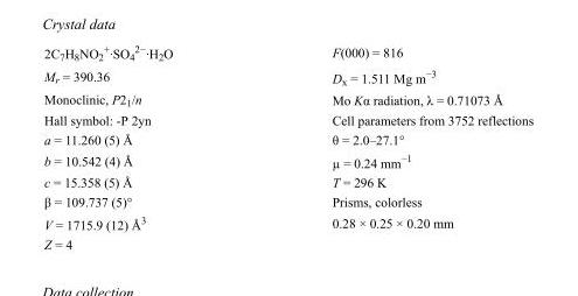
<table><tbody><tr><td>2C<sub>7</sub>H<sub>8</sub>NO<sub>2</sub> <sup>+</sup>·SO<sub>4</sub> <sup>2−</sup>·H<sub>2</sub>O</td><td>F(000) = 816</td></tr><tr><td>M<sub>r</sub> = 390.36</td><td>D<sub>x</sub> = 1.511 Mg m<sup>−3</sup></td></tr><tr><td>Monoclinic, P2<sub>1</sub>/n</td><td>Mo Kα radiation, λ = 0.71073 Å</td></tr><tr><td>Hall symbol: -P 2yn</td><td>Cell parameters from 3752 reflections</td></tr><tr><td>a = 11.260 (5) Å</td><td>θ = 2.0–27.1°</td></tr><tr><td>b = 10.542 (4) Å</td><td>µ = 0.24 mm<sup>−1</sup></td></tr><tr><td>c = 15.358 (5) Å</td><td>T = 296 K</td></tr><tr><td>β = 109.737 (5)°</td><td>Prisms, colorless</td></tr><tr><td>V = 1715.9 (12) Å<sup>3</sup></td><td>0.28 × 0.25 × 0.20 mm</td></tr><tr><td>Z = 4</td><td></td></tr></tbody></table>